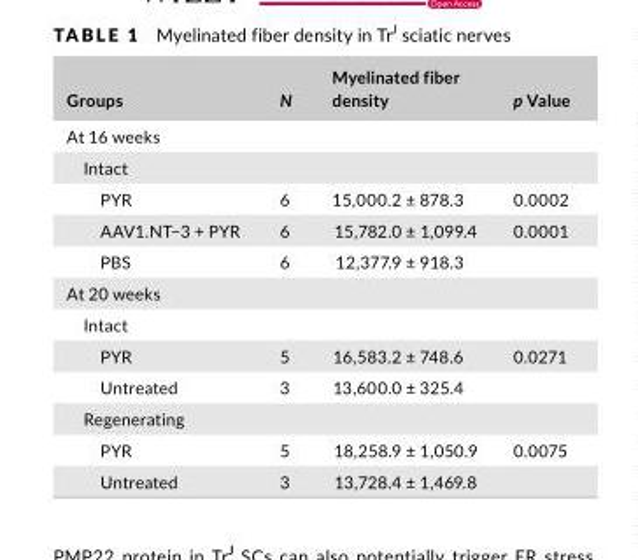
<table><thead><tr><td>Groups</td><td>N</td><td>Myelinated fiber density</td><td>p Value</td></tr></thead><tbody><tr><td colspan="4">At 16 weeks</td></tr><tr><td colspan="4">Intact</td></tr><tr><td>PYR</td><td>6</td><td>15,000.2 ± 878.3</td><td>0.0002</td></tr><tr><td>AAV1.NT−3 + PYR</td><td>6</td><td>15,782.0 ± 1,099.4</td><td>0.0001</td></tr><tr><td>PBS</td><td>6</td><td>12,377.9 ± 918.3</td><td></td></tr><tr><td colspan="4">At 20 weeks</td></tr><tr><td colspan="4">Intact</td></tr><tr><td>PYR</td><td>5</td><td>16,583.2 ± 748.6</td><td>0.0271</td></tr><tr><td>Untreated</td><td>3</td><td>13,600.0 ± 325.4</td><td></td></tr><tr><td colspan="4">Regenerating</td></tr><tr><td>PYR</td><td>5</td><td>18,258.9 ± 1,050.9</td><td>0.0075</td></tr><tr><td>Untreated</td><td>3</td><td>13,728.4 ± 1,469.8</td><td></td></tr></tbody></table>